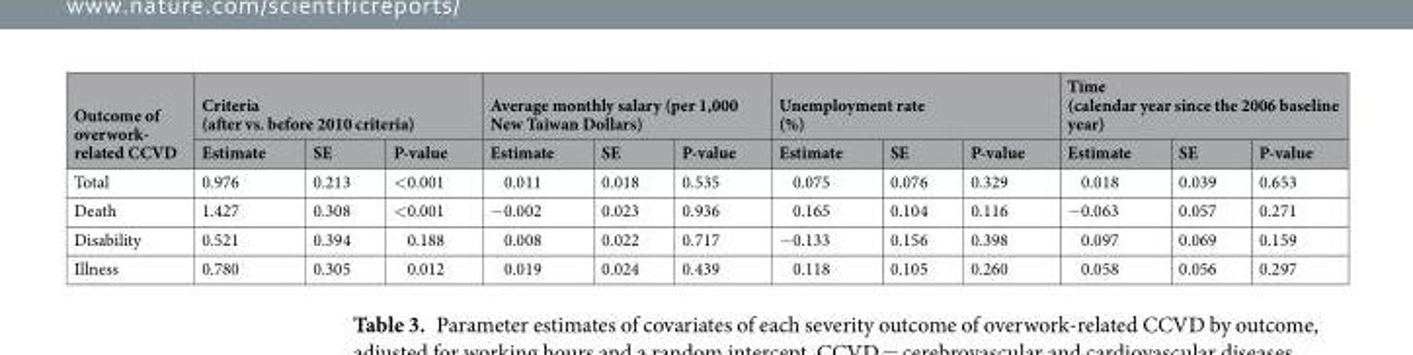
<table><thead><tr><td rowspan="2">Outcome of overwork- related CCVD</td><td colspan="3">Criteria (after vs. before 2010 criteria)</td><td colspan="3">Average monthly salary (per 1,000 New Taiwan Dollars)</td><td colspan="3">Unemployment rate (%)</td><td colspan="3">Time (calendar year since the 2006 baseline year)</td></tr><tr><td>Estimate</td><td>SE</td><td>P-value</td><td>Estimate</td><td>SE</td><td>P-value</td><td>Estimate</td><td>SE</td><td>P-value</td><td>Estimate</td><td>SE</td><td>P-value</td></tr></thead><tbody><tr><td>Total</td><td>0.976</td><td>0.213</td><td>&lt;0.001</td><td>0.011</td><td>0.018</td><td>0.535</td><td>0.075</td><td>0.076</td><td>0.329</td><td>0.018</td><td>0.039</td><td>0.653</td></tr><tr><td>Death</td><td>1.427</td><td>0.308</td><td>&lt;0.001</td><td>−0.002</td><td>0.023</td><td>0.936</td><td>0.165</td><td>0.104</td><td>0.116</td><td>−0.063</td><td>0.057</td><td>0.271</td></tr><tr><td>Disability</td><td>0.521</td><td>0.394</td><td>0.188</td><td>0.008</td><td>0.022</td><td>0.717</td><td>−0.133</td><td>0.156</td><td>0.398</td><td>0.097</td><td>0.069</td><td>0.159</td></tr><tr><td>Illness</td><td>0.780</td><td>0.305</td><td>0.012</td><td>0.019</td><td>0.024</td><td>0.439</td><td>0.118</td><td>0.105</td><td>0.260</td><td>0.058</td><td>0.056</td><td>0.297</td></tr></tbody></table>